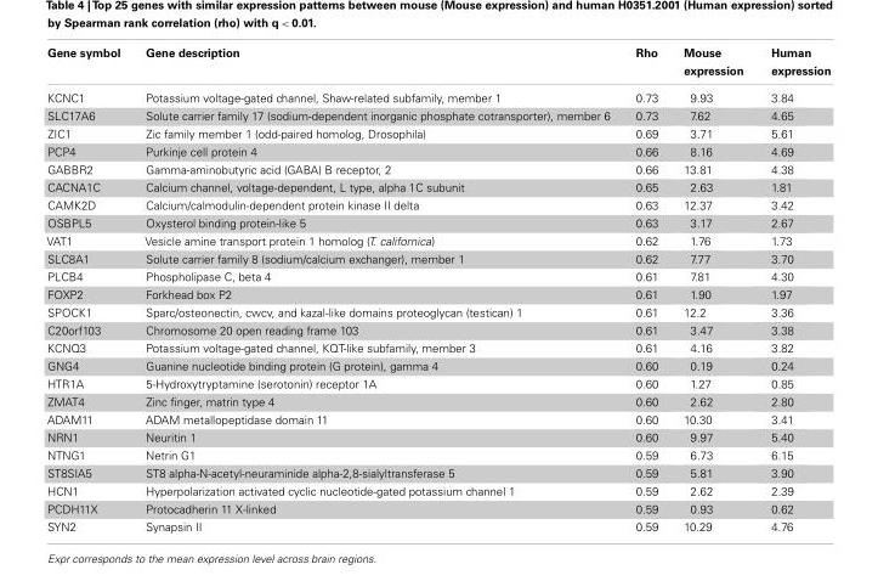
<table><thead><tr><td>Gene symbol</td><td>Gene description</td><td>Rho</td><td>Mouse expression</td><td>Human expression</td></tr></thead><tbody><tr><td>KCNC1</td><td>Potassium voltage-gated channel, Shaw-related subfamily, member 1</td><td>0.73</td><td>9.93</td><td>3.84</td></tr><tr><td>SLC17A6</td><td>Solute carrier family 17 (sodium-dependent inorganic phosphate cotransporter), member 6</td><td>0.73</td><td>7.62</td><td>4.65</td></tr><tr><td>ZIC1</td><td>Zic family member 1 (odd-paired homolog, Drosophila)</td><td>0.69</td><td>3.71</td><td>5.61</td></tr><tr><td>PCP4</td><td>Purkinje cell protein 4</td><td>0.66</td><td>8.16</td><td>4.69</td></tr><tr><td>GABBR2</td><td>Gamma-aminobutyric acid (GABA) B receptor, 2</td><td>0.66</td><td>13.81</td><td>4.38</td></tr><tr><td>CACNA1C</td><td>Calcium channel, voltage-dependent, L type, alpha 1C subunit</td><td>0.65</td><td>2.63</td><td>1.81</td></tr><tr><td>CAMK2D</td><td>Calcium/calmodulin-dependent protein kinase II delta</td><td>0.63</td><td>12.37</td><td>3.42</td></tr><tr><td>OSBPL5</td><td>Oxysterol binding protein-like 5</td><td>0.63</td><td>3.17</td><td>2.67</td></tr><tr><td>VAT1</td><td>Vesicle amine transport protein 1 homolog (T. californica)</td><td>0.62</td><td>1.76</td><td>1.73</td></tr><tr><td>SLC8A1</td><td>Solute carrier family 8 (sodium/calcium exchanger), member 1</td><td>0.62</td><td>7.77</td><td>3.70</td></tr><tr><td>PLCB4</td><td>Phospholipase C, beta 4</td><td>0.61</td><td>7.81</td><td>4.30</td></tr><tr><td>FOXP2</td><td>Forkhead box P2</td><td>0.61</td><td>1.90</td><td>1.97</td></tr><tr><td>SPOCK1</td><td>Sparc/osteonectin, cwcv, and kazal-like domains proteoglycan (testican) 1</td><td>0.61</td><td>12.2</td><td>3.36</td></tr><tr><td>C20orf103</td><td>Chromosome 20 open reading frame 103</td><td>0.61</td><td>3.47</td><td>3.38</td></tr><tr><td>KCNQ3</td><td>Potassium voltage-gated channel, KQT-like subfamily, member 3</td><td>0.61</td><td>4.16</td><td>3.82</td></tr><tr><td>GNG4</td><td>Guanine nucleotide binding protein (G protein), gamma 4</td><td>0.60</td><td>0.19</td><td>0.24</td></tr><tr><td>HTR1A</td><td>5-Hydroxytryptamine (serotonin) receptor 1A</td><td>0.60</td><td>1.27</td><td>0.85</td></tr><tr><td>ZMAT4</td><td>Zinc finger, matrin type 4</td><td>0.60</td><td>2.62</td><td>2.80</td></tr><tr><td>ADAM11</td><td>ADAM metallopeptidase domain 11</td><td>0.60</td><td>10.30</td><td>3.41</td></tr><tr><td>NRN1</td><td>Neuritin 1</td><td>0.60</td><td>9.97</td><td>5.40</td></tr><tr><td>NTNG1</td><td>Netrin G1</td><td>0.59</td><td>6.73</td><td>6.15</td></tr><tr><td>ST8SIA5</td><td>ST8 alpha-N-acetyl-neuraminide alpha-2,8-sialyltransferase 5</td><td>0.59</td><td>5.81</td><td>3.90</td></tr><tr><td>HCN1</td><td>Hyperpolarization activated cyclic nucleotide-gated potassium channel 1</td><td>0.59</td><td>2.62</td><td>2.39</td></tr><tr><td>PCDH11X</td><td>Protocadherin 11 X-linked</td><td>0.59</td><td>0.93</td><td>0.62</td></tr><tr><td>SYN2</td><td>Synapsin II</td><td>0.59</td><td>10.29</td><td>4.76</td></tr></tbody></table>